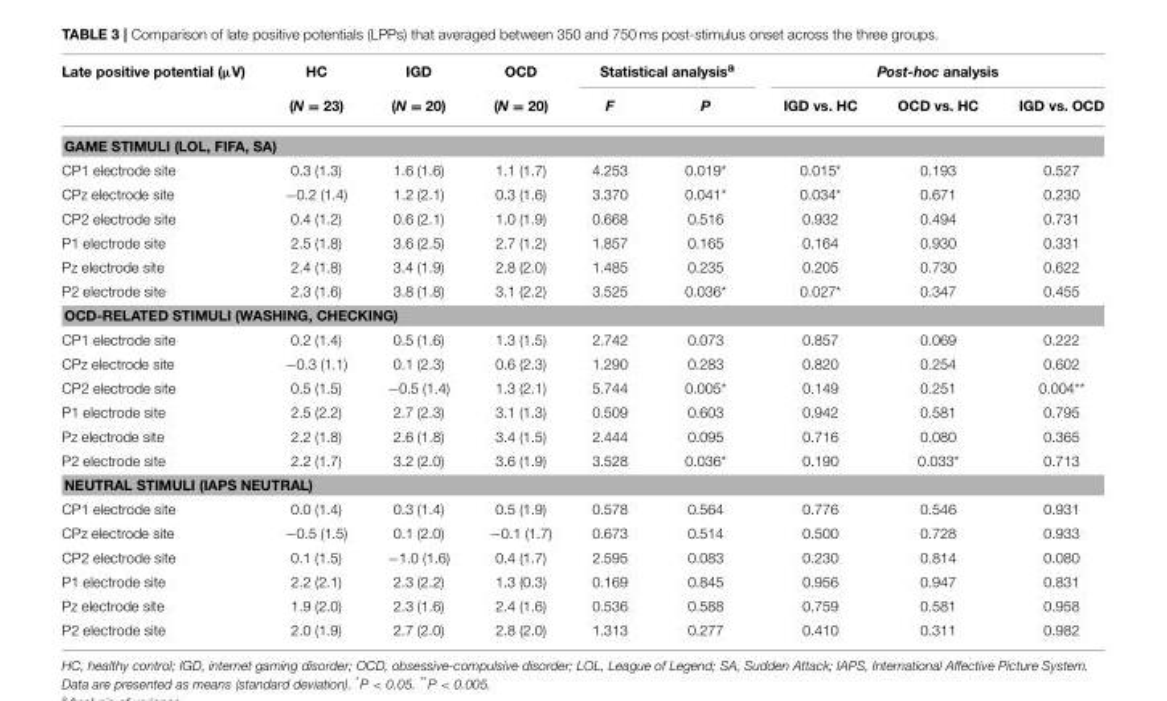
<table><thead><tr><td rowspan="2">Late positive potential (µV)</td><td rowspan="2">HC (N = 23)</td><td rowspan="2">IGD (N = 20)</td><td rowspan="2">OCD (N = 20)</td><td colspan="2">Statistical analysis<sup>a</sup></td><td colspan="3">Post-hoc analysis</td></tr><tr><td>F</td><td>P</td><td>IGD vs. HC</td><td>OCD vs. HC</td><td>IGD vs. OCD</td></tr></thead><tbody><tr><td colspan="9">GAME STIMULI (LOL, FIFA, SA)</td></tr><tr><td>CP1 electrode site</td><td>0.3 (1.3)</td><td>1.6 (1.6)</td><td>1.1 (1.7)</td><td>4.253</td><td>0.019*</td><td>0.015*</td><td>0.193</td><td>0.527</td></tr><tr><td>CPz electrode site</td><td>−0.2 (1.4)</td><td>1.2 (2.1)</td><td>0.3 (1.6)</td><td>3.370</td><td>0.041*</td><td>0.034*</td><td>0.671</td><td>0.230</td></tr><tr><td>CP2 electrode site</td><td>0.4 (1.2)</td><td>0.6 (2.1)</td><td>1.0 (1.9)</td><td>0.668</td><td>0.516</td><td>0.932</td><td>0.494</td><td>0.731</td></tr><tr><td>P1 electrode site</td><td>2.5 (1.8)</td><td>3.6 (2.5)</td><td>2.7 (1.2)</td><td>1.857</td><td>0.165</td><td>0.164</td><td>0.930</td><td>0.331</td></tr><tr><td>Pz electrode site</td><td>2.4 (1.8)</td><td>3.4 (1.9)</td><td>2.8 (2.0)</td><td>1.485</td><td>0.235</td><td>0.205</td><td>0.730</td><td>0.622</td></tr><tr><td>P2 electrode site</td><td>2.3 (1.6)</td><td>3.8 (1.8)</td><td>3.1 (2.2)</td><td>3.525</td><td>0.036*</td><td>0.027*</td><td>0.347</td><td>0.455</td></tr><tr><td colspan="9">OCD-RELATED STIMULI (WASHING, CHECKING)</td></tr><tr><td>CP1 electrode site</td><td>0.2 (1.4)</td><td>0.5 (1.6)</td><td>1.3 (1.5)</td><td>2.742</td><td>0.073</td><td>0.857</td><td>0.069</td><td>0.222</td></tr><tr><td>CPz electrode site</td><td>−0.3 (1.1)</td><td>0.1 (2.3)</td><td>0.6 (2.3)</td><td>1.290</td><td>0.283</td><td>0.820</td><td>0.254</td><td>0.602</td></tr><tr><td>CP2 electrode site</td><td>0.5 (1.5)</td><td>−0.5 (1.4)</td><td>1.3 (2.1)</td><td>5.744</td><td>0.005*</td><td>0.149</td><td>0.251</td><td>0.004**</td></tr><tr><td>P1 electrode site</td><td>2.5 (2.2)</td><td>2.7 (2.3)</td><td>3.1 (1.3)</td><td>0.509</td><td>0.603</td><td>0.942</td><td>0.581</td><td>0.795</td></tr><tr><td>Pz electrode site</td><td>2.2 (1.8)</td><td>2.6 (1.8)</td><td>3.4 (1.5)</td><td>2.444</td><td>0.095</td><td>0.716</td><td>0.080</td><td>0.365</td></tr><tr><td>P2 electrode site</td><td>2.2 (1.7)</td><td>3.2 (2.0)</td><td>3.6 (1.9)</td><td>3.528</td><td>0.036*</td><td>0.190</td><td>0.033*</td><td>0.713</td></tr><tr><td colspan="9">NEUTRAL STIMULI (IAPS NEUTRAL)</td></tr><tr><td>CP1 electrode site</td><td>0.0 (1.4)</td><td>0.3 (1.4)</td><td>0.5 (1.9)</td><td>0.578</td><td>0.564</td><td>0.776</td><td>0.546</td><td>0.931</td></tr><tr><td>CPz electrode site</td><td>−0.5 (1.5)</td><td>0.1 (2.0)</td><td>−0.1 (1.7)</td><td>0.673</td><td>0.514</td><td>0.500</td><td>0.728</td><td>0.933</td></tr><tr><td>CP2 electrode site</td><td>0.1 (1.5)</td><td>−1.0 (1.6)</td><td>0.4 (1.7)</td><td>2.595</td><td>0.083</td><td>0.230</td><td>0.814</td><td>0.080</td></tr><tr><td>P1 electrode site</td><td>2.2 (2.1)</td><td>2.3 (2.2)</td><td>1.3 (0.3)</td><td>0.169</td><td>0.845</td><td>0.956</td><td>0.947</td><td>0.831</td></tr><tr><td>Pz electrode site</td><td>1.9 (2.0)</td><td>2.3 (1.6)</td><td>2.4 (1.6)</td><td>0.536</td><td>0.588</td><td>0.759</td><td>0.581</td><td>0.958</td></tr><tr><td>P2 electrode site</td><td>2.0 (1.9)</td><td>2.7 (2.0)</td><td>2.8 (2.0)</td><td>1.313</td><td>0.277</td><td>0.410</td><td>0.311</td><td>0.982</td></tr></tbody></table>